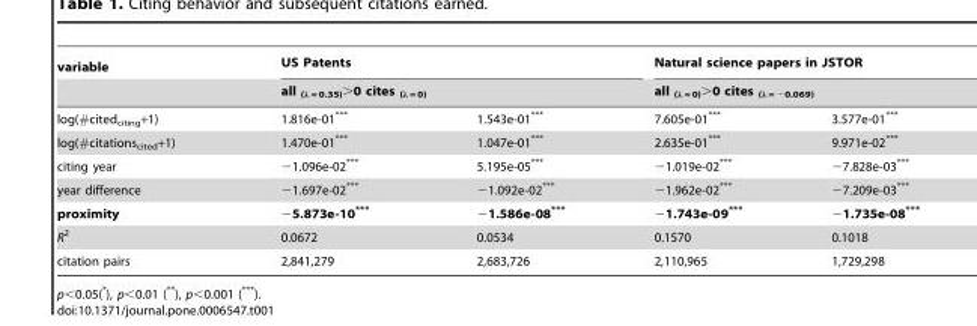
<table><thead><tr><td rowspan="3">variable log(#cited<sub>citing</sub>+1)</td><td rowspan="2" colspan="2">US Patents all <sub>(λ = 0.35)</sub>&gt;0 cites <sub>(λ = 0)</sub></td><td rowspan="2" colspan="2">Natural science papers in JSTOR all <sub>(λ = 0)</sub>&gt;0 cites <sub>(λ = −0.069)</sub></td></tr><tr></tr><tr><td>1.816e-01***</td><td>1.543e-01***</td><td>7.605e-01***</td><td>3.577e-01***</td></tr></thead><tbody><tr><td>log(#citations<sub>cited</sub>+1)</td><td>1.470e-01***</td><td>1.047e-01***</td><td>2.635e-01***</td><td>9.971e-02***</td></tr><tr><td>citing year</td><td>−1.096e-02***</td><td>5.195e-05***</td><td>−1.019e-02***</td><td>−7.828e-03***</td></tr><tr><td>year difference</td><td>−1.697e-02***</td><td>−1.092e-02***</td><td>−1.962e-02***</td><td>−7.209e-03***</td></tr><tr><td>proximity</td><td>−5.873e-10***</td><td>−1.586e-08***</td><td>−1.743e-09***</td><td>−1.735e-08***</td></tr><tr><td>R<sup>2</sup></td><td>0.0672</td><td>0.0534</td><td>0.1570</td><td>0.1018</td></tr><tr><td>citation pairs</td><td>2,841,279</td><td>2,683,726</td><td>2,110,965</td><td>1,729,298</td></tr></tbody></table>